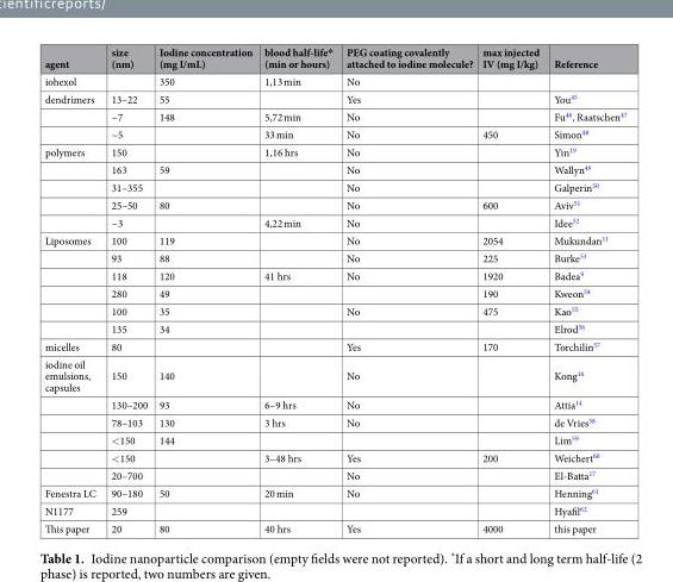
<table><thead><tr><td>agent</td><td>size (nm)</td><td>Iodine concentration (mg I/mL)</td><td>blood half-life* (min or hours)</td><td>PEG coating covalently attached to iodine molecule?</td><td>max injected IV (mg I/kg)</td><td>Reference</td></tr></thead><tbody><tr><td>iohexol</td><td></td><td>350</td><td>1,13 min</td><td>No</td><td></td><td></td></tr><tr><td rowspan="3">dendrimers</td><td>13–22</td><td>55</td><td></td><td>Yes</td><td></td><td>You<sup>45</sup></td></tr><tr><td>~7</td><td>148</td><td>5,72 min</td><td>No</td><td></td><td>Fu<sup>46</sup>, Raatschen<sup>47</sup></td></tr><tr><td>~5</td><td></td><td>33 min</td><td>No</td><td>450</td><td>Simon<sup>48</sup></td></tr><tr><td rowspan="5">polymers</td><td>150</td><td></td><td>1,16 hrs</td><td>No</td><td></td><td>Yin<sup>19</sup></td></tr><tr><td>163</td><td>59</td><td></td><td>No</td><td></td><td>Wallyn<sup>49</sup></td></tr><tr><td>31–355</td><td></td><td></td><td>No</td><td></td><td>Galperin<sup>50</sup></td></tr><tr><td>25–50</td><td>80</td><td></td><td>No</td><td>600</td><td>Aviv<sup>51</sup></td></tr><tr><td>~3</td><td></td><td>4,22 min</td><td>No</td><td></td><td>Idee<sup>52</sup></td></tr><tr><td rowspan="6">Liposomes</td><td>100</td><td>119</td><td></td><td>No</td><td>2054</td><td>Mukundan<sup>11</sup></td></tr><tr><td>93</td><td>88</td><td></td><td>No</td><td>225</td><td>Burke<sup>53</sup></td></tr><tr><td>118</td><td>120</td><td>41 hrs</td><td>No</td><td>1920</td><td>Badea<sup>9</sup></td></tr><tr><td>280</td><td>49</td><td></td><td></td><td>190</td><td>Kweon<sup>54</sup></td></tr><tr><td>100</td><td>35</td><td></td><td>No</td><td>475</td><td>Kao<sup>55</sup></td></tr><tr><td>135</td><td>34</td><td></td><td></td><td></td><td>Elrod<sup>56</sup></td></tr><tr><td>micelles</td><td>80</td><td></td><td></td><td>Yes</td><td>170</td><td>Torchilin<sup>57</sup></td></tr><tr><td rowspan="6">iodine oil emulsions, capsules</td><td>150</td><td>140</td><td></td><td>No</td><td></td><td>Kong<sup>16</sup></td></tr><tr><td>130–200</td><td>93</td><td>6–9 hrs</td><td>No</td><td></td><td>Attia<sup>14</sup></td></tr><tr><td>78–103</td><td>130</td><td>3 hrs</td><td>No</td><td></td><td>de Vries<sup>58</sup></td></tr><tr><td>&lt;150</td><td>144</td><td></td><td></td><td></td><td>Lim<sup>59</sup></td></tr><tr><td>&lt;150</td><td></td><td>3–48 hrs</td><td>Yes</td><td>200</td><td>Weichert<sup>60</sup></td></tr><tr><td>20–700</td><td></td><td></td><td>No</td><td></td><td>El-Batta<sup>17</sup></td></tr><tr><td>Fenestra LC</td><td>90–180</td><td>50</td><td>20 min</td><td>No</td><td></td><td>Henning<sup>61</sup></td></tr><tr><td>N1177</td><td>259</td><td></td><td></td><td></td><td></td><td>Hyafil<sup>62</sup></td></tr><tr><td>This paper</td><td>20</td><td>80</td><td>40 hrs</td><td>Yes</td><td>4000</td><td>this paper</td></tr></tbody></table>